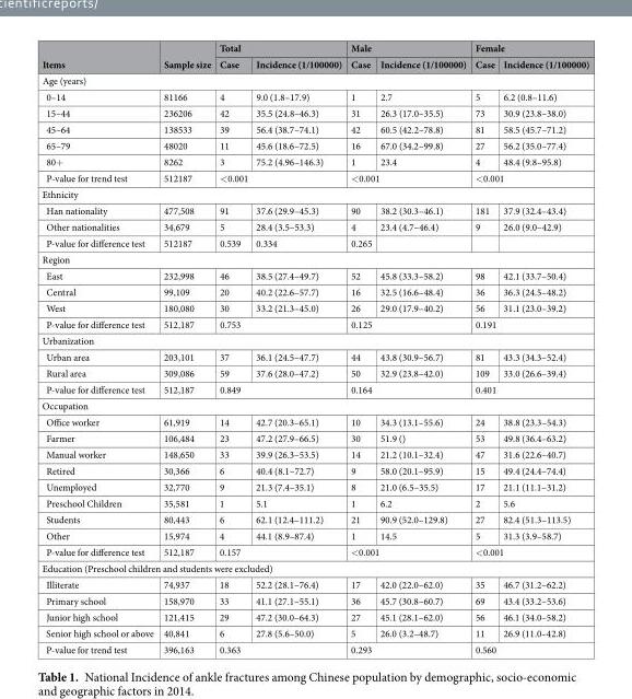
<table><thead><tr><td rowspan="2">Items</td><td rowspan="2">Sample size</td><td colspan="2">Total</td><td colspan="2">Male</td><td colspan="2">Female</td></tr><tr><td>Case</td><td>Incidence (1/100000)</td><td>Case</td><td>Incidence (1/100000)</td><td>Case</td><td>Incidence (1/100000)</td></tr></thead><tbody><tr><td colspan="8">Age (years)</td></tr><tr><td>0–14</td><td>81166</td><td>4</td><td>9.0 (1.8–17.9)</td><td>1</td><td>2.7</td><td>5</td><td>6.2 (0.8–11.6)</td></tr><tr><td>15–44</td><td>236206</td><td>42</td><td>35.5 (24.8–46.3)</td><td>31</td><td>26.3 (17.0–35.5)</td><td>73</td><td>30.9 (23.8–38.0)</td></tr><tr><td>45–64</td><td>138533</td><td>39</td><td>56.4 (38.7–74.1)</td><td>42</td><td>60.5 (42.2–78.8)</td><td>81</td><td>58.5 (45.7–71.2)</td></tr><tr><td>65–79</td><td>48020</td><td>11</td><td>45.6 (18.6–72.5)</td><td>16</td><td>67.0 (34.2–99.8)</td><td>27</td><td>56.2 (35.0–77.4)</td></tr><tr><td>80+</td><td>8262</td><td>3</td><td>75.2 (4.96–146.3)</td><td>1</td><td>23.4</td><td>4</td><td>48.4 (9.8–95.8)</td></tr><tr><td>P-value for trend test</td><td>512187</td><td colspan="2">&lt;0.001</td><td colspan="2">&lt;0.001</td><td colspan="2">&lt;0.001</td></tr><tr><td colspan="8">Ethnicity</td></tr><tr><td>Han nationality</td><td>477,508</td><td>91</td><td>37.6 (29.9–45.3)</td><td>90</td><td>38.2 (30.3–46.1)</td><td>181</td><td>37.9 (32.4–43.4)</td></tr><tr><td>Other nationalities</td><td>34,679</td><td>5</td><td>28.4 (3.5–53.3)</td><td>4</td><td>23.4 (4.7–46.4)</td><td>9</td><td>26.0 (9.0–42.9)</td></tr><tr><td>P-value for difference test</td><td>512187</td><td>0.539</td><td>0.334</td><td>0.265</td><td></td><td></td><td></td></tr><tr><td colspan="8">Region</td></tr><tr><td>East</td><td>232,998</td><td>46</td><td>38.5 (27.4–49.7)</td><td>52</td><td>45.8 (33.3–58.2)</td><td>98</td><td>42.1 (33.7–50.4)</td></tr><tr><td>Central</td><td>99,109</td><td>20</td><td>40.2 (22.6–57.7)</td><td>16</td><td>32.5 (16.6–48.4)</td><td>36</td><td>36.3 (24.5–48.2)</td></tr><tr><td>West</td><td>180,080</td><td>30</td><td>33.2 (21.3–45.0)</td><td>26</td><td>29.0 (17.9–40.2)</td><td>56</td><td>31.1 (23.0–39.2)</td></tr><tr><td>P-value for difference test</td><td>512,187</td><td colspan="2">0.753</td><td colspan="2">0.125</td><td colspan="2">0.191</td></tr><tr><td colspan="8">Urbanization</td></tr><tr><td>Urban area</td><td>203,101</td><td>37</td><td>36.1 (24.5–47.7)</td><td>44</td><td>43.8 (30.9–56.7)</td><td>81</td><td>43.3 (34.3–52.4)</td></tr><tr><td>Rural area</td><td>309,086</td><td>59</td><td>37.6 (28.0–47.2)</td><td>50</td><td>32.9 (23.8–42.0)</td><td>109</td><td>33.0 (26.6–39.4)</td></tr><tr><td>P-value for difference test</td><td>512,187</td><td colspan="2">0.849</td><td colspan="2">0.164</td><td colspan="2">0.401</td></tr><tr><td colspan="8">Occupation</td></tr><tr><td>Office worker</td><td>61,919</td><td>14</td><td>42.7 (20.3–65.1)</td><td>10</td><td>34.3 (13.1–55.6)</td><td>24</td><td>38.8 (23.3–54.3)</td></tr><tr><td>Farmer</td><td>106,484</td><td>23</td><td>47.2 (27.9–66.5)</td><td>30</td><td>51.9 ()</td><td>53</td><td>49.8 (36.4–63.2)</td></tr><tr><td>Manual worker</td><td>148,650</td><td>33</td><td>39.9 (26.3–53.5)</td><td>14</td><td>21.2 (10.1–32.4)</td><td>47</td><td>31.6 (22.6–40.7)</td></tr><tr><td>Retired</td><td>30,366</td><td>6</td><td>40.4 (8.1–72.7)</td><td>9</td><td>58.0 (20.1–95.9)</td><td>15</td><td>49.4 (24.4–74.4)</td></tr><tr><td>Unemployed</td><td>32,770</td><td>9</td><td>21.3 (7.4–35.1)</td><td>8</td><td>21.0 (6.5–35.5)</td><td>17</td><td>21.1 (11.1–31.2)</td></tr><tr><td>Preschool Children</td><td>35,581</td><td>1</td><td>5.1</td><td>1</td><td>6.2</td><td>2</td><td>5.6</td></tr><tr><td>Students</td><td>80,443</td><td>6</td><td>62.1 (12.4–111.2)</td><td>21</td><td>90.9 (52.0–129.8)</td><td>27</td><td>82.4 (51.3–113.5)</td></tr><tr><td>Other</td><td>15,974</td><td>4</td><td>44.1 (8.9–87.4)</td><td>1</td><td>14.5</td><td>5</td><td>31.3 (3.9–58.7)</td></tr><tr><td>P-value for difference test</td><td>512,187</td><td colspan="2">0.157</td><td colspan="2">&lt;0.001</td><td colspan="2">&lt;0.001</td></tr><tr><td colspan="8">Education (Preschool children and students were excluded)</td></tr><tr><td>Illiterate</td><td>74,937</td><td>18</td><td>52.2 (28.1–76.4)</td><td>17</td><td>42.0 (22.0–62.0)</td><td>35</td><td>46.7 (31.2–62.2)</td></tr><tr><td>Primary school</td><td>158,970</td><td>33</td><td>41.1 (27.1–55.1)</td><td>36</td><td>45.7 (30.8–60.7)</td><td>69</td><td>43.4 (33.2–53.6)</td></tr><tr><td>Junior high school</td><td>121,415</td><td>29</td><td>47.2 (30.0–64.3)</td><td>27</td><td>45.1 (28.1–62.0)</td><td>56</td><td>46.1 (34.0–58.2)</td></tr><tr><td>Senior high school or above</td><td>40,841</td><td>6</td><td>27.8 (5.6–50.0)</td><td>5</td><td>26.0 (3.2–48.7)</td><td>11</td><td>26.9 (11.0–42.8)</td></tr><tr><td>P-value for trend test</td><td>396,163</td><td colspan="2">0.363</td><td colspan="2">0.293</td><td colspan="2">0.560</td></tr></tbody></table>